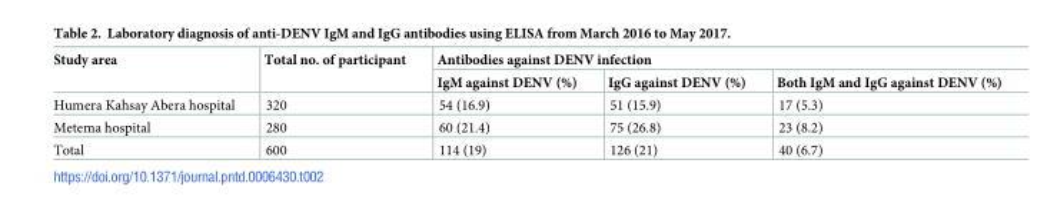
<table><thead><tr><td rowspan="2">Study area</td><td rowspan="2">Total no. of participant</td><td colspan="3">Antibodies against DENV infection</td></tr><tr><td>IgM against DENV (%)</td><td>IgG against DENV (%)</td><td>Both IgM and IgG against DENV (%)</td></tr></thead><tbody><tr><td>Humera Kahsay Abera hospital</td><td>320</td><td>54 (16.9)</td><td>51 (15.9)</td><td>17 (5.3)</td></tr><tr><td>Metema hospital</td><td>280</td><td>60 (21.4)</td><td>75 (26.8)</td><td>23 (8.2)</td></tr><tr><td>Total</td><td>600</td><td>114 (19)</td><td>126 (21)</td><td>40 (6.7)</td></tr></tbody></table>